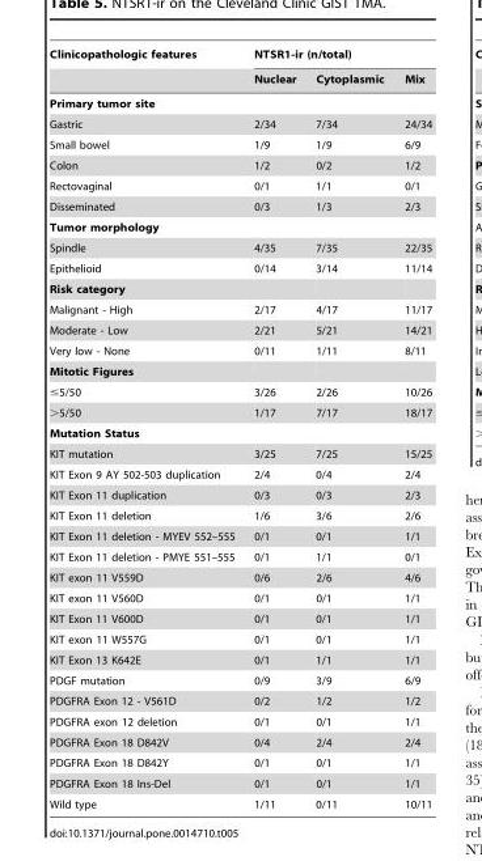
<table><thead><tr><td rowspan="2">Clinicopathologic features</td><td colspan="3">NTSR1-ir (n/total)</td></tr><tr><td>Nuclear</td><td>Cytoplasmic</td><td>Mix</td></tr></thead><tbody><tr><td colspan="4">Primary tumor site</td></tr><tr><td>Gastric</td><td>2/34</td><td>7/34</td><td>24/34</td></tr><tr><td>Small bowel</td><td>1/9</td><td>1/9</td><td>6/9</td></tr><tr><td>Colon</td><td>1/2</td><td>0/2</td><td>1/2</td></tr><tr><td>Rectovaginal</td><td>0/1</td><td>1/1</td><td>0/1</td></tr><tr><td>Disseminated</td><td>0/3</td><td>1/3</td><td>2/3</td></tr><tr><td colspan="4">Tumor morphology</td></tr><tr><td>Spindle</td><td>4/35</td><td>7/35</td><td>22/35</td></tr><tr><td>Epithelioid</td><td>0/14</td><td>3/14</td><td>11/14</td></tr><tr><td colspan="4">Risk category</td></tr><tr><td>Malignant - High</td><td>2/17</td><td>4/17</td><td>11/17</td></tr><tr><td>Moderate - Low</td><td>2/21</td><td>5/21</td><td>14/21</td></tr><tr><td>Very low - None</td><td>0/11</td><td>1/11</td><td>8/11</td></tr><tr><td colspan="4">Mitotic Figures</td></tr><tr><td>≤5/50</td><td>3/26</td><td>2/26</td><td>10/26</td></tr><tr><td>&gt;5/50</td><td>1/17</td><td>7/17</td><td>18/17</td></tr><tr><td colspan="4">Mutation Status</td></tr><tr><td>KIT mutation</td><td>3/25</td><td>7/25</td><td>15/25</td></tr><tr><td>KIT Exon 9 AY 502-503 duplication</td><td>2/4</td><td>0/4</td><td>2/4</td></tr><tr><td>KIT Exon 11 duplication</td><td>0/3</td><td>0/3</td><td>2/3</td></tr><tr><td>KIT Exon 11 deletion</td><td>1/6</td><td>3/6</td><td>2/6</td></tr><tr><td>KIT Exon 11 deletion - MYEV 552–555</td><td>0/1</td><td>0/1</td><td>1/1</td></tr><tr><td>KIT Exon 11 deletion - PMYE 551–555</td><td>0/1</td><td>1/1</td><td>0/1</td></tr><tr><td>KIT exon 11 V559D</td><td>0/6</td><td>2/6</td><td>4/6</td></tr><tr><td>KIT exon 11 V560D</td><td>0/1</td><td>0/1</td><td>1/1</td></tr><tr><td>KIT Exon 11 V600D</td><td>0/1</td><td>0/1</td><td>1/1</td></tr><tr><td>KIT exon 11 W557G</td><td>0/1</td><td>0/1</td><td>1/1</td></tr><tr><td>KIT Exon 13 K642E</td><td>0/1</td><td>1/1</td><td>1/1</td></tr><tr><td>PDGF mutation</td><td>0/9</td><td>3/9</td><td>6/9</td></tr><tr><td>PDGFRA Exon 12 - V561D</td><td>0/2</td><td>1/2</td><td>1/2</td></tr><tr><td>PDGFRA exon 12 deletion</td><td>0/1</td><td>0/1</td><td>1/1</td></tr><tr><td>PDGFRA Exon 18 D842V</td><td>0/4</td><td>2/4</td><td>2/4</td></tr><tr><td>PDGFRA Exon 18 D842Y</td><td>0/1</td><td>0/1</td><td>1/1</td></tr><tr><td>PDGFRA Exon 18 Ins-Del</td><td>0/1</td><td>0/1</td><td>1/1</td></tr><tr><td>Wild type</td><td>1/11</td><td>0/11</td><td>10/11</td></tr></tbody></table>